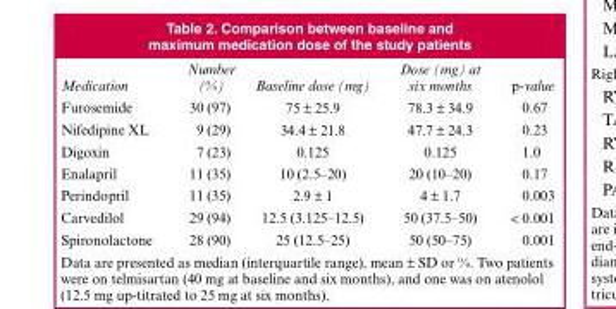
<table><thead><tr><td>Medication</td><td>Number (%)</td><td>Baseline dose (mg)</td><td>Dose (mg) at six months</td><td>p-value</td></tr></thead><tbody><tr><td>Furosemide</td><td>30 (97)</td><td>75 ± 25.9</td><td>78.3 ± 34.9</td><td>0.67</td></tr><tr><td>Nifedipine XL</td><td>9 (29)</td><td>34.4 ± 21.8</td><td>47.7 ± 24.3</td><td>0.23</td></tr><tr><td>Digoxin</td><td>7 (23)</td><td>0.125</td><td>0.125</td><td>1.0</td></tr><tr><td>Enalapril</td><td>11 (35)</td><td>10 (2.5–20)</td><td>20 (10–20)</td><td>0.17</td></tr><tr><td>Perindopril</td><td>11 (35)</td><td>2.9 ± 1</td><td>4 ± 1.7</td><td>0.003</td></tr><tr><td>Carvedilol</td><td>29 (94)</td><td>12.5 (3.125–12.5)</td><td>50 (37.5–50)</td><td>&lt; 0.001</td></tr><tr><td>Spironolactone</td><td>28 (90)</td><td>25 (12.5–25)</td><td>50 (50–75)</td><td>0.001</td></tr></tbody></table>